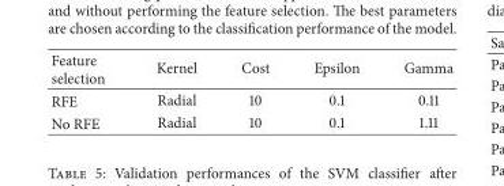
<table><thead><tr><td>Feature selection</td><td>Kernel</td><td>Cost</td><td>Epsilon</td><td>Gamma</td></tr></thead><tbody><tr><td>RFE</td><td>Radial</td><td>10</td><td>0.1</td><td>0.11</td></tr><tr><td>No RFE</td><td>Radial</td><td>10</td><td>0.1</td><td>1.11</td></tr></tbody></table>